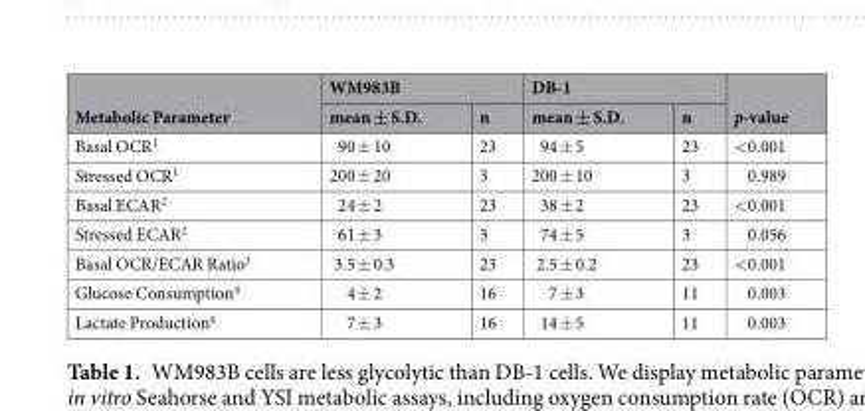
<table><thead><tr><td rowspan="2">Metabolic Parameter</td><td colspan="2">WM983B</td><td colspan="2">DB-1</td><td rowspan="2">p-value</td></tr><tr><td>mean ± S.D.</td><td>n</td><td>mean ± S.D.</td><td>n</td></tr></thead><tbody><tr><td>Basal OCR<sup>1</sup></td><td>90 ± 10</td><td>23</td><td>94 ± 5</td><td>23</td><td>&lt;0.001</td></tr><tr><td>Stressed OCR<sup>1</sup></td><td>200 ± 20</td><td>3</td><td>200 ± 10</td><td>3</td><td>0.989</td></tr><tr><td>Basal ECAR<sup>2</sup></td><td>24 ± 2</td><td>23</td><td>38 ± 2</td><td>23</td><td>&lt;0.001</td></tr><tr><td>Stressed ECAR<sup>2</sup></td><td>61 ± 3</td><td>3</td><td>74 ± 5</td><td>3</td><td>0.056</td></tr><tr><td>Basal OCR/ECAR Ratio<sup>3</sup></td><td>3.5 ± 0.3</td><td>23</td><td>2.5 ± 0.2</td><td>23</td><td>&lt;0.001</td></tr><tr><td>Glucose Consumption<sup>4</sup></td><td>4 ± 2</td><td>16</td><td>7 ± 3</td><td>11</td><td>0.003</td></tr><tr><td>Lactate Production<sup>4</sup></td><td>7 ± 3</td><td>16</td><td>14 ± 5</td><td>11</td><td>0.003</td></tr></tbody></table>